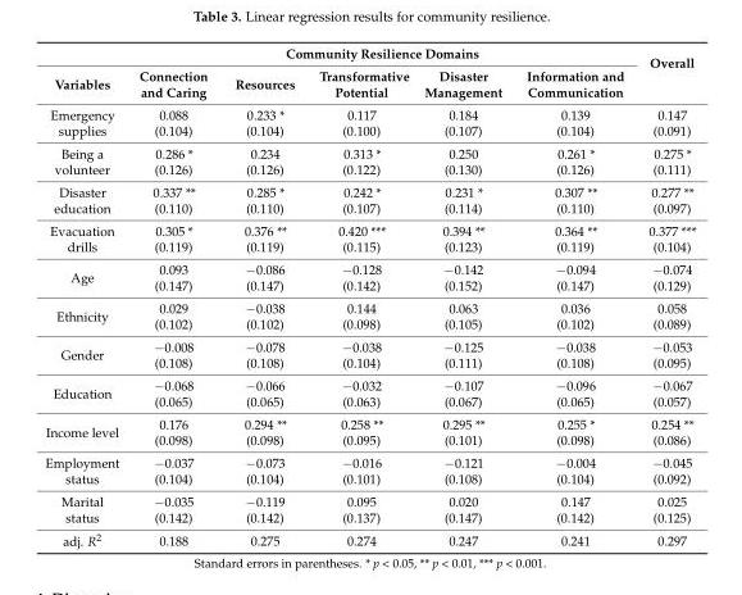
<table><thead><tr><td rowspan="2">Variables</td><td colspan="5">Community Resilience Domains</td><td rowspan="2">Overall</td></tr><tr><td>Connection and Caring</td><td>Resources</td><td>Transformative Potential</td><td>Disaster Management</td><td>Information and Communication</td></tr></thead><tbody><tr><td>Emergency supplies</td><td>0.088 (0.104)</td><td>0.233 * (0.104)</td><td>0.117 (0.100)</td><td>0.184 (0.107)</td><td>0.139 (0.104)</td><td>0.147 (0.091)</td></tr><tr><td>Being a volunteer</td><td>0.286 * (0.126)</td><td>0.234 (0.126)</td><td>0.313 * (0.122)</td><td>0.250 (0.130)</td><td>0.261 * (0.126)</td><td>0.275 * (0.111)</td></tr><tr><td>Disaster education</td><td>0.337 ** (0.110)</td><td>0.285 * (0.110)</td><td>0.242 * (0.107)</td><td>0.231 * (0.114)</td><td>0.307 ** (0.110)</td><td>0.277 ** (0.097)</td></tr><tr><td>Evacuation drills</td><td>0.305 * (0.119)</td><td>0.376 ** (0.119)</td><td>0.420 *** (0.115)</td><td>0.394 ** (0.123)</td><td>0.364 ** (0.119)</td><td>0.377 *** (0.104)</td></tr><tr><td>Age</td><td>0.093 (0.147)</td><td>−0.086 (0.147)</td><td>−0.128 (0.142)</td><td>−0.142 (0.152)</td><td>−0.094 (0.147)</td><td>−0.074 (0.129)</td></tr><tr><td>Ethnicity</td><td>0.029 (0.102)</td><td>−0.038 (0.102)</td><td>0.144 (0.098)</td><td>0.063 (0.105)</td><td>0.036 (0.102)</td><td>0.058 (0.089)</td></tr><tr><td>Gender</td><td>−0.008 (0.108)</td><td>−0.078 (0.108)</td><td>−0.038 (0.104)</td><td>−0.125 (0.111)</td><td>−0.038 (0.108)</td><td>−0.053 (0.095)</td></tr><tr><td>Education</td><td>−0.068 (0.065)</td><td>−0.066 (0.065)</td><td>−0.032 (0.063)</td><td>−0.107 (0.067)</td><td>−0.096 (0.065)</td><td>−0.067 (0.057)</td></tr><tr><td>Income level</td><td>0.176 (0.098)</td><td>0.294 ** (0.098)</td><td>0.258 ** (0.095)</td><td>0.295 ** (0.101)</td><td>0.255 * (0.098)</td><td>0.254 ** (0.086)</td></tr><tr><td>Employment status</td><td>−0.037 (0.104)</td><td>−0.073 (0.104)</td><td>−0.016 (0.101)</td><td>−0.121 (0.108)</td><td>−0.004 (0.104)</td><td>−0.045 (0.092)</td></tr><tr><td>Marital status</td><td>−0.035 (0.142)</td><td>−0.119 (0.142)</td><td>0.095 (0.137)</td><td>0.020 (0.147)</td><td>0.147 (0.142)</td><td>0.025 (0.125)</td></tr><tr><td>adj. R<sup>2</sup></td><td>0.188</td><td>0.275</td><td>0.274</td><td>0.247</td><td>0.241</td><td>0.297</td></tr></tbody></table>